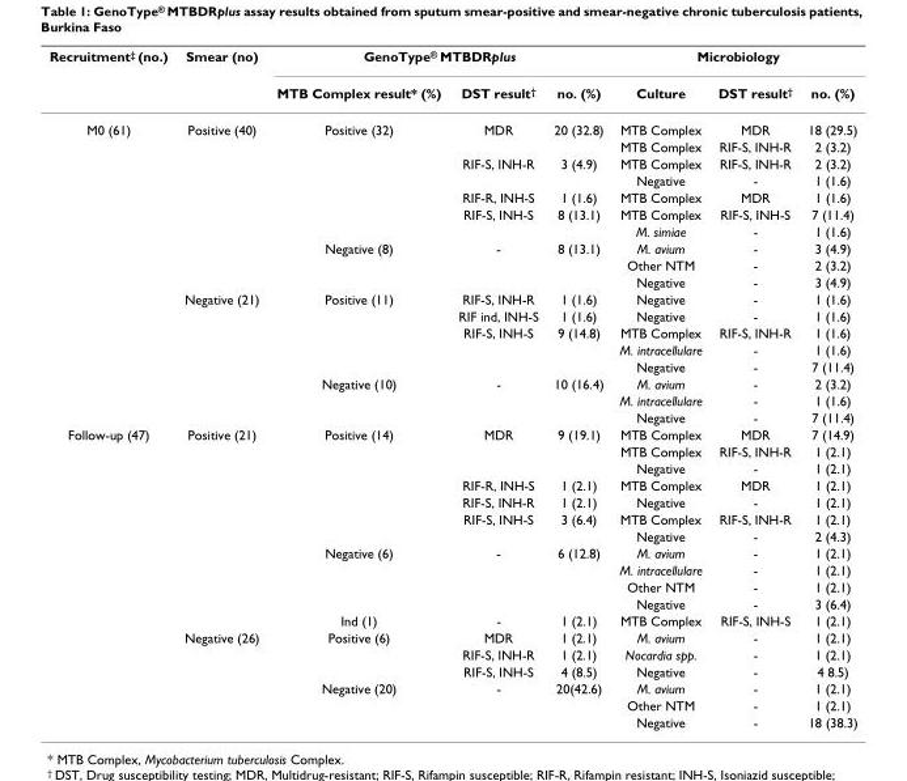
<table><thead><tr><td rowspan="2">Recruitment<sup>‡</sup> (no.)</td><td rowspan="2">Smear (no)</td><td colspan="3">GenoType<sup>®</sup> MTBDRplus</td><td colspan="3">Microbiology</td></tr><tr><td>MTB Complex result* (%)</td><td>DST result<sup>†</sup></td><td>no. (%)</td><td>Culture</td><td>DST result<sup>†</sup></td><td>no. (%)</td></tr></thead><tbody><tr><td rowspan="18">M0 (61)</td><td>Positive (40)</td><td>Positive (32)</td><td>MDR</td><td>20 (32.8)</td><td>MTB Complex</td><td>MDR</td><td>18 (29.5)</td></tr><tr><td></td><td></td><td></td><td></td><td>MTB Complex</td><td>RIF-S, INH-R</td><td>2 (3.2)</td></tr><tr><td></td><td></td><td>RIF-S, INH-R</td><td>3 (4.9)</td><td>MTB Complex</td><td>RIF-S, INH-R</td><td>2 (3.2)</td></tr><tr><td></td><td></td><td></td><td></td><td>Negative</td><td>-</td><td>1 (1.6)</td></tr><tr><td></td><td></td><td>RIF-R, INH-S</td><td>1 (1.6)</td><td>MTB Complex</td><td>MDR</td><td>1 (1.6)</td></tr><tr><td></td><td></td><td>RIF-S, INH-S</td><td>8 (13.1)</td><td>MTB Complex</td><td>RIF-S, INH-S</td><td>7 (11.4)</td></tr><tr><td></td><td></td><td></td><td></td><td>M. simiae</td><td>-</td><td>1 (1.6)</td></tr><tr><td></td><td>Negative (8)</td><td>-</td><td>8 (13.1)</td><td>M. avium</td><td>-</td><td>3 (4.9)</td></tr><tr><td></td><td></td><td></td><td></td><td>Other NTM</td><td>-</td><td>2 (3.2)</td></tr><tr><td></td><td></td><td></td><td></td><td>Negative</td><td>-</td><td>3 (4.9)</td></tr><tr><td>Negative (21)</td><td>Positive (11)</td><td>RIF-S, INH-R</td><td>1 (1.6)</td><td>Negative</td><td>-</td><td>1 (1.6)</td></tr><tr><td></td><td></td><td>RIF ind, INH-S</td><td>1 (1.6)</td><td>Negative</td><td>-</td><td>1 (1.6)</td></tr><tr><td></td><td></td><td>RIF-S, INH-S</td><td>9 (14.8)</td><td>MTB Complex</td><td>RIF-S, INH-R</td><td>1 (1.6)</td></tr><tr><td></td><td></td><td></td><td></td><td>M. intracellulare</td><td>-</td><td>1 (1.6)</td></tr><tr><td></td><td></td><td></td><td></td><td>Negative</td><td>-</td><td>7 (11.4)</td></tr><tr><td></td><td>Negative (10)</td><td>-</td><td>10 (16.4)</td><td>M. avium</td><td>-</td><td>2 (3.2)</td></tr><tr><td></td><td></td><td></td><td></td><td>M. intracellulare</td><td>-</td><td>1 (1.6)</td></tr><tr><td></td><td></td><td></td><td></td><td>Negative</td><td>-</td><td>7 (11.4)</td></tr><tr><td rowspan="18">Follow-up (47)</td><td>Positive (21)</td><td>Positive (14)</td><td>MDR</td><td>9 (19.1)</td><td>MTB Complex</td><td>MDR</td><td>7 (14.9)</td></tr><tr><td></td><td></td><td></td><td></td><td>MTB Complex</td><td>RIF-S, INH-R</td><td>1 (2.1)</td></tr><tr><td></td><td></td><td></td><td></td><td>Negative</td><td>-</td><td>1 (2.1)</td></tr><tr><td></td><td></td><td>RIF-R, INH-S</td><td>1 (2.1)</td><td>MTB Complex</td><td>MDR</td><td>1 (2.1)</td></tr><tr><td></td><td></td><td>RIF-S, INH-R</td><td>1 (2.1)</td><td>Negative</td><td>-</td><td>1 (2.1)</td></tr><tr><td></td><td></td><td>RIF-S, INH-S</td><td>3 (6.4)</td><td>MTB Complex</td><td>RIF-S, INH-R</td><td>1 (2.1)</td></tr><tr><td></td><td></td><td></td><td></td><td>Negative</td><td>-</td><td>2 (4.3)</td></tr><tr><td></td><td>Negative (6)</td><td>-</td><td>6 (12.8)</td><td>M. avium</td><td>-</td><td>1 (2.1)</td></tr><tr><td></td><td></td><td></td><td></td><td>M. intracellulare</td><td>-</td><td>1 (2.1)</td></tr><tr><td></td><td></td><td></td><td></td><td>Other NTM</td><td>-</td><td>1 (2.1)</td></tr><tr><td></td><td></td><td></td><td></td><td>Negative</td><td>-</td><td>3 (6.4)</td></tr><tr><td></td><td>Ind (1)</td><td>-</td><td>1 (2.1)</td><td>MTB Complex</td><td>RIF-S, INH-S</td><td>1 (2.1)</td></tr><tr><td>Negative (26)</td><td>Positive (6)</td><td>MDR</td><td>1 (2.1)</td><td>M. avium</td><td>-</td><td>1 (2.1)</td></tr><tr><td></td><td></td><td>RIF-S, INH-R</td><td>1 (2.1)</td><td>Nocardia spp.</td><td>-</td><td>1 (2.1)</td></tr><tr><td></td><td></td><td>RIF-S, INH-S</td><td>4 (8.5)</td><td>Negative</td><td>-</td><td>4 8.5)</td></tr><tr><td></td><td>Negative (20)</td><td>-</td><td>20(42.6)</td><td>M. avium</td><td>-</td><td>1 (2.1)</td></tr><tr><td></td><td></td><td></td><td></td><td>Other NTM</td><td>-</td><td>1 (2.1)</td></tr><tr><td></td><td></td><td></td><td></td><td>Negative</td><td>-</td><td>18 (38.3)</td></tr></tbody></table>